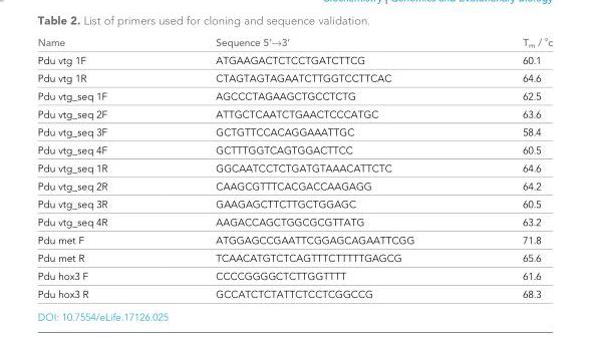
<table><thead><tr><td>Name</td><td>Sequence 5’fi3’</td><td>Tm / ˚c</td></tr></thead><tbody><tr><td>Pdu vtg 1F</td><td>ATGAAGACTCTCCTGATCTTCG</td><td>60.1</td></tr><tr><td>Pdu vtg 1R</td><td>CTAGTAGTAGAATCTTGGTCCTTCAC</td><td>64.6</td></tr><tr><td>Pdu vtg_seq 1F</td><td>AGCCCTAGAAGCTGCCTCTG</td><td>62.5</td></tr><tr><td>Pdu vtg_seq 2F</td><td>ATTGCTCAATCTGAACTCCCATGC</td><td>63.6</td></tr><tr><td>Pdu vtg_seq 3F</td><td>GCTGTTCCACAGGAAATTGC</td><td>58.4</td></tr><tr><td>Pdu vtg_seq 4F</td><td>GCTTTGGTCAGTGGACTTCC</td><td>60.5</td></tr><tr><td>Pdu vtg_seq 1R</td><td>GGCAATCCTCTGATGTAAACATTCTC</td><td>64.6</td></tr><tr><td>Pdu vtg_seq 2R</td><td>CAAGCGTTTCACGACCAAGAGG</td><td>64.2</td></tr><tr><td>Pdu vtg_seq 3R</td><td>GAAGAGCTTCTTGCTGGAGC</td><td>60.5</td></tr><tr><td>Pdu vtg_seq 4R</td><td>AAGACCAGCTGGCGCGTTATG</td><td>63.2</td></tr><tr><td>Pdu met F</td><td>ATGGAGCCGAATTCGGAGCAGAATTCGG</td><td>71.8</td></tr><tr><td>Pdu met R</td><td>TCAACATGTCTCAGTTTCTTTTTGAGCG</td><td>65.6</td></tr><tr><td>Pdu hox3 F</td><td>CCCCGGGGCTCTTGGTTTT</td><td>61.6</td></tr><tr><td>Pdu hox3 R</td><td>GCCATCTCTATTCTCCTCGGCCG</td><td>68.3</td></tr></tbody></table>